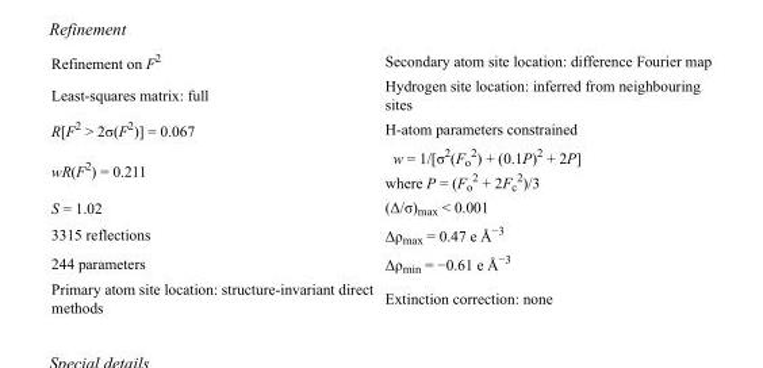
<table><tbody><tr><td>Refinement on F<sup>2</sup></td><td>Secondary atom site location: difference Fourier map</td></tr><tr><td>Least-squares matrix: full</td><td>Hydrogen site location: inferred from neighbouring sites</td></tr><tr><td>R[F<sup>2</sup> &gt; 2σ(F<sup>2</sup>)] = 0.067</td><td>H-atom parameters constrained</td></tr><tr><td>wR(F<sup>2</sup>) = 0.211</td><td>w = 1/[σ<sup>2</sup>(F<sub>o</sub> <sup>2</sup>) + (0.1P)<sup>2</sup> + 2P] where P = (F<sub>o</sub> <sup>2</sup> + 2F<sub>c</sub> <sup>2</sup>)/3</td></tr><tr><td>S = 1.02</td><td>(Δ/σ)<sub>max</sub> &lt; 0.001</td></tr><tr><td>3315 reflections</td><td>Δρ<sub>max</sub> = 0.47 e Å<sup>−3</sup></td></tr><tr><td>244 parameters</td><td>Δρ<sub>min</sub> = −0.61 e Å<sup>−3</sup></td></tr><tr><td>Primary atom site location: structure-invariant direct methods</td><td>Extinction correction: none</td></tr></tbody></table>